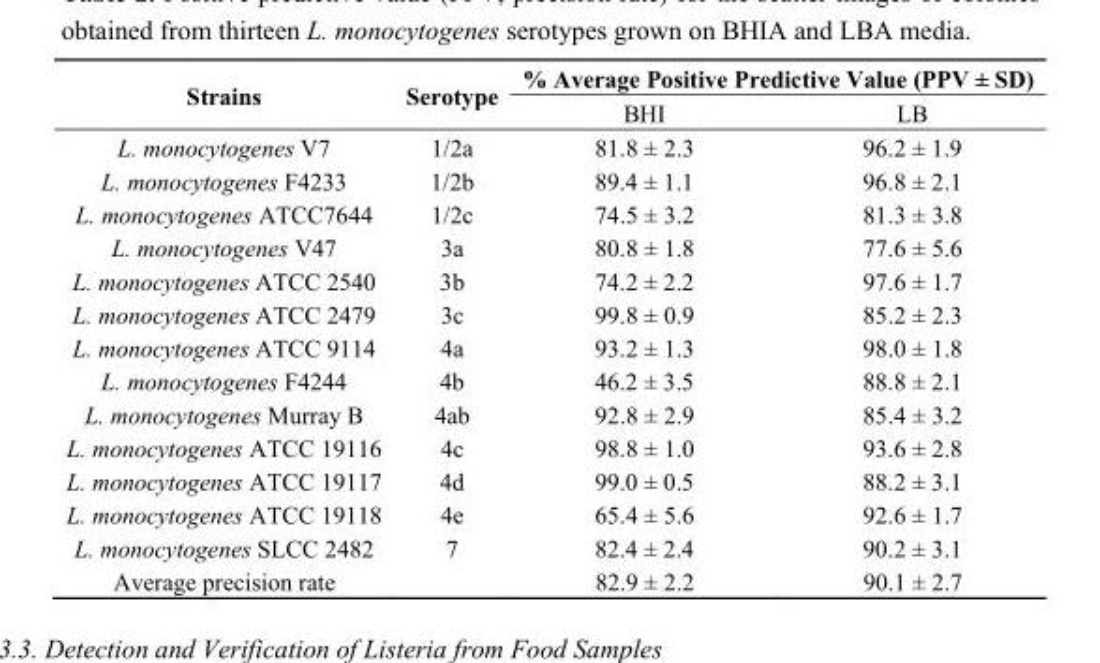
<table><thead><tr><td rowspan="2">Strains</td><td rowspan="2">Serotype</td><td colspan="2">% Average Positive Predictive Value (PPV ± SD)</td></tr><tr><td>BHI</td><td>LB</td></tr></thead><tbody><tr><td>L. monocytogenes V7</td><td>1/2a</td><td>81.8 ± 2.3</td><td>96.2 ± 1.9</td></tr><tr><td>L. monocytogenes F4233</td><td>1/2b</td><td>89.4 ± 1.1</td><td>96.8 ± 2.1</td></tr><tr><td>L. monocytogenes ATCC7644</td><td>1/2c</td><td>74.5 ± 3.2</td><td>81.3 ± 3.8</td></tr><tr><td>L. monocytogenes V47</td><td>3a</td><td>80.8 ± 1.8</td><td>77.6 ± 5.6</td></tr><tr><td>L. monocytogenes ATCC 2540</td><td>3b</td><td>74.2 ± 2.2</td><td>97.6 ± 1.7</td></tr><tr><td>L. monocytogenes ATCC 2479</td><td>3c</td><td>99.8 ± 0.9</td><td>85.2 ± 2.3</td></tr><tr><td>L. monocytogenes ATCC 9114</td><td>4a</td><td>93.2 ± 1.3</td><td>98.0 ± 1.8</td></tr><tr><td>L. monocytogenes F4244</td><td>4b</td><td>46.2 ± 3.5</td><td>88.8 ± 2.1</td></tr><tr><td>L. monocytogenes Murray B</td><td>4ab</td><td>92.8 ± 2.9</td><td>85.4 ± 3.2</td></tr><tr><td>L. monocytogenes ATCC 19116</td><td>4c</td><td>98.8 ± 1.0</td><td>93.6 ± 2.8</td></tr><tr><td>L. monocytogenes ATCC 19117</td><td>4d</td><td>99.0 ± 0.5</td><td>88.2 ± 3.1</td></tr><tr><td>L. monocytogenes ATCC 19118</td><td>4e</td><td>65.4 ± 5.6</td><td>92.6 ± 1.7</td></tr><tr><td>L. monocytogenes SLCC 2482</td><td>7</td><td>82.4 ± 2.4</td><td>90.2 ± 3.1</td></tr><tr><td>Average precision rate</td><td></td><td>82.9 ± 2.2</td><td>90.1 ± 2.7</td></tr></tbody></table>